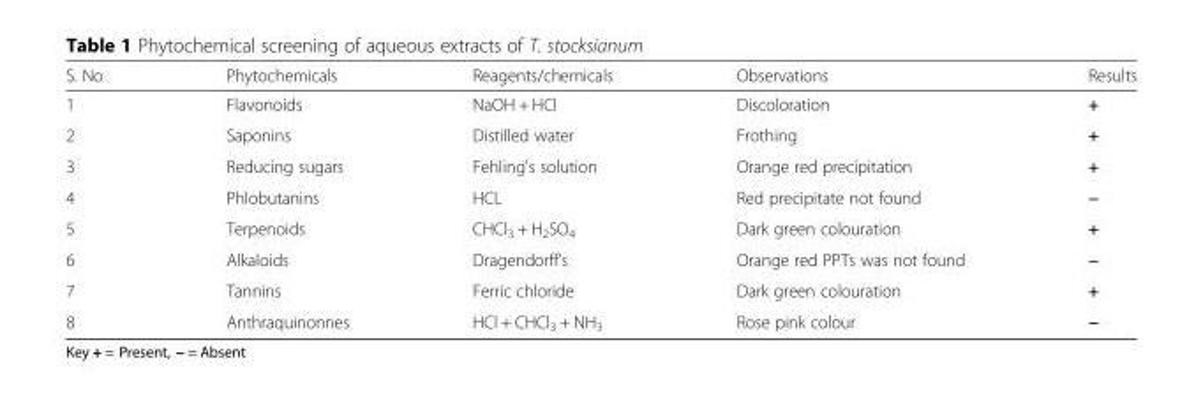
<table><thead><tr><td>S. No</td><td>Phytochemicals</td><td>Reagents/chemicals</td><td>Observations</td><td>Results</td></tr></thead><tbody><tr><td>1</td><td>Flavonoids</td><td>NaOH + HCl</td><td>Discoloration</td><td>+</td></tr><tr><td>2</td><td>Saponins</td><td>Distilled water</td><td>Frothing</td><td>+</td></tr><tr><td>3</td><td>Reducing sugars</td><td>Fehling&#x27;s solution</td><td>Orange red precipitation</td><td>+</td></tr><tr><td>4</td><td>Phlobutanins</td><td>HCL</td><td>Red precipitate not found</td><td>−</td></tr><tr><td>5</td><td>Terpenoids</td><td>CHCl<sub>3</sub> + H<sub>2</sub>SO<sub>4</sub></td><td>Dark green colouration</td><td>+</td></tr><tr><td>6</td><td>Alkaloids</td><td>Dragendorff’s</td><td>Orange red PPTs was not found</td><td>−</td></tr><tr><td>7</td><td>Tannins</td><td>Ferric chloride</td><td>Dark green colouration</td><td>+</td></tr><tr><td>8</td><td>Anthraquinonnes</td><td>HCl + CHCl<sub>3</sub> + NH<sub>3</sub></td><td>Rose pink colour</td><td>−</td></tr></tbody></table>